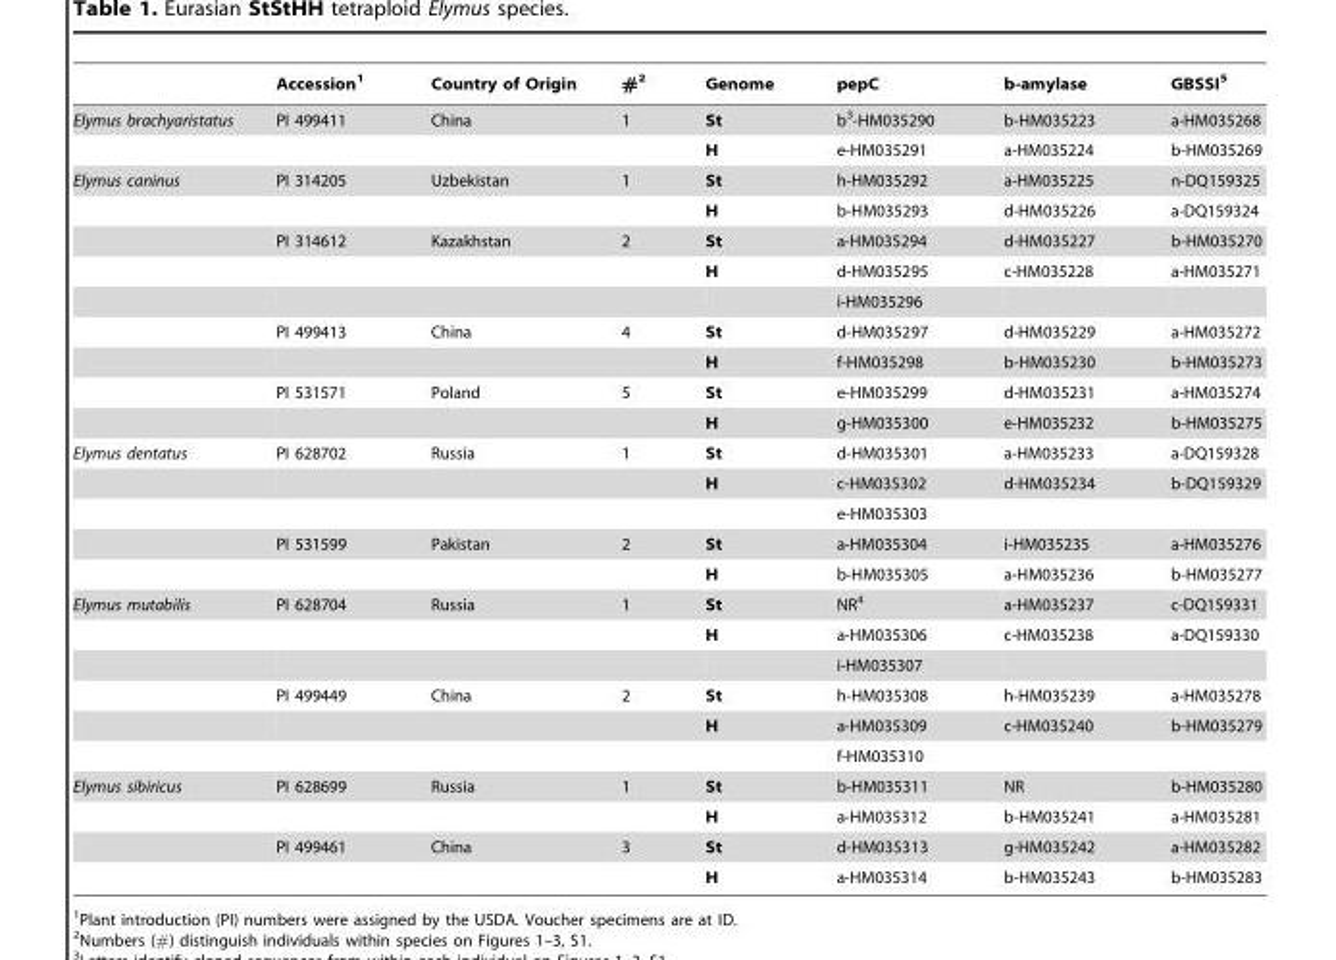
<table><thead><tr><td></td><td>Accession<sup>1</sup></td><td>Country of Origin</td><td>#<sup>2</sup></td><td>Genome</td><td>pepC</td><td>b-amylase</td><td>GBSSI<sup>5</sup></td></tr></thead><tbody><tr><td rowspan="2">Elymus brachyaristatus</td><td>PI 499411</td><td>China</td><td>1</td><td>St</td><td>b<sup>3</sup>-HM035290</td><td>b-HM035223</td><td>a-HM035268</td></tr><tr><td></td><td></td><td></td><td>H</td><td>e-HM035291</td><td>a-HM035224</td><td>b-HM035269</td></tr><tr><td rowspan="9">Elymus caninus</td><td>PI 314205</td><td>Uzbekistan</td><td>1</td><td>St</td><td>h-HM035292</td><td>a-HM035225</td><td>n-DQ159325</td></tr><tr><td></td><td></td><td></td><td>H</td><td>b-HM035293</td><td>d-HM035226</td><td>a-DQ159324</td></tr><tr><td>PI 314612</td><td>Kazakhstan</td><td>2</td><td>St</td><td>a-HM035294</td><td>d-HM035227</td><td>b-HM035270</td></tr><tr><td></td><td></td><td></td><td>H</td><td>d-HM035295</td><td>c-HM035228</td><td>a-HM035271</td></tr><tr><td></td><td></td><td></td><td></td><td>i-HM035296</td><td></td><td></td></tr><tr><td>PI 499413</td><td>China</td><td>4</td><td>St</td><td>d-HM035297</td><td>d-HM035229</td><td>a-HM035272</td></tr><tr><td></td><td></td><td></td><td>H</td><td>f-HM035298</td><td>b-HM035230</td><td>b-HM035273</td></tr><tr><td>PI 531571</td><td>Poland</td><td>5</td><td>St</td><td>e-HM035299</td><td>d-HM035231</td><td>a-HM035274</td></tr><tr><td></td><td></td><td></td><td>H</td><td>g-HM035300</td><td>e-HM035232</td><td>b-HM035275</td></tr><tr><td rowspan="5">Elymus dentatus</td><td>PI 628702</td><td>Russia</td><td>1</td><td>St</td><td>d-HM035301</td><td>a-HM035233</td><td>a-DQ159328</td></tr><tr><td></td><td></td><td></td><td>H</td><td>c-HM035302</td><td>d-HM035234</td><td>b-DQ159329</td></tr><tr><td></td><td></td><td></td><td></td><td>e-HM035303</td><td></td><td></td></tr><tr><td>PI 531599</td><td>Pakistan</td><td>2</td><td>St</td><td>a-HM035304</td><td>i-HM035235</td><td>a-HM035276</td></tr><tr><td></td><td></td><td></td><td>H</td><td>b-HM035305</td><td>a-HM035236</td><td>b-HM035277</td></tr><tr><td rowspan="6">Elymus mutabilis</td><td>PI 628704</td><td>Russia</td><td>1</td><td>St</td><td>NR<sup>4</sup></td><td>a-HM035237</td><td>c-DQ159331</td></tr><tr><td></td><td></td><td></td><td>H</td><td>a-HM035306</td><td>c-HM035238</td><td>a-DQ159330</td></tr><tr><td></td><td></td><td></td><td></td><td>i-HM035307</td><td></td><td></td></tr><tr><td>PI 499449</td><td>China</td><td>2</td><td>St</td><td>h-HM035308</td><td>h-HM035239</td><td>a-HM035278</td></tr><tr><td></td><td></td><td></td><td>H</td><td>a-HM035309</td><td>c-HM035240</td><td>b-HM035279</td></tr><tr><td></td><td></td><td></td><td></td><td>f-HM035310</td><td></td><td></td></tr><tr><td rowspan="4">Elymus sibiricus</td><td>PI 628699</td><td>Russia</td><td>1</td><td>St</td><td>b-HM035311</td><td>NR</td><td>b-HM035280</td></tr><tr><td></td><td></td><td></td><td>H</td><td>a-HM035312</td><td>b-HM035241</td><td>a-HM035281</td></tr><tr><td>PI 499461</td><td>China</td><td>3</td><td>St</td><td>d-HM035313</td><td>g-HM035242</td><td>a-HM035282</td></tr><tr><td></td><td></td><td></td><td>H</td><td>a-HM035314</td><td>b-HM035243</td><td>b-HM035283</td></tr></tbody></table>